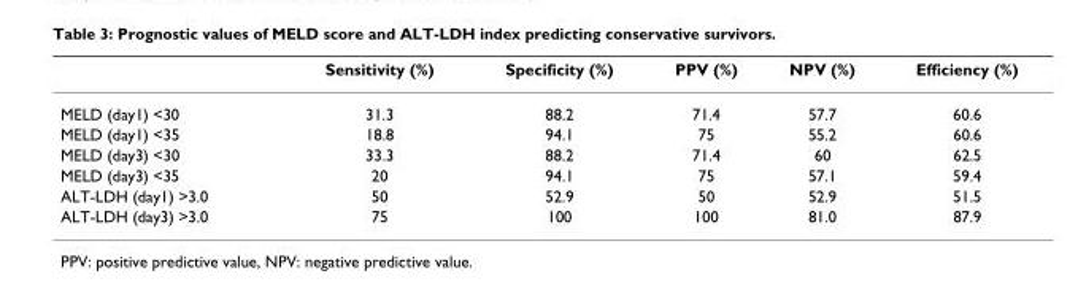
<table><thead><tr><td></td><td>Sensitivity (%)</td><td>Specificity (%)</td><td>PPV (%)</td><td>NPV (%)</td><td>Efficiency (%)</td></tr></thead><tbody><tr><td>MELD (day1) &lt;30</td><td>31.3</td><td>88.2</td><td>71.4</td><td>57.7</td><td>60.6</td></tr><tr><td>MELD (day1) &lt;35</td><td>18.8</td><td>94.1</td><td>75</td><td>55.2</td><td>60.6</td></tr><tr><td>MELD (day3) &lt;30</td><td>33.3</td><td>88.2</td><td>71.4</td><td>60</td><td>62.5</td></tr><tr><td>MELD (day3) &lt;35</td><td>20</td><td>94.1</td><td>75</td><td>57.1</td><td>59.4</td></tr><tr><td>ALT-LDH (day1) &gt;3.0</td><td>50</td><td>52.9</td><td>50</td><td>52.9</td><td>51.5</td></tr><tr><td>ALT-LDH (day3) &gt;3.0</td><td>75</td><td>100</td><td>100</td><td>81.0</td><td>87.9</td></tr></tbody></table>